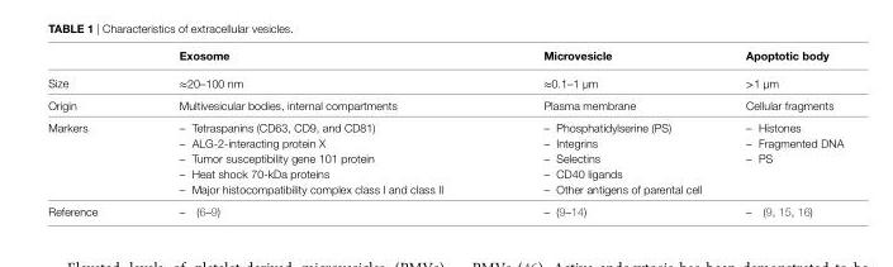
<table><thead><tr><td></td><td>exosome</td><td>Microvesicle</td><td>Apoptotic body</td></tr></thead><tbody><tr><td>Size</td><td>≈20–100 nm</td><td>≈0.1–1 µm</td><td>&gt;1 µm</td></tr><tr><td>Origin</td><td>Multivesicular bodies, internal compartments</td><td>Plasma membrane</td><td>Cellular fragments</td></tr><tr><td>Markers</td><td>– Tetraspanins (CD63, CD9, and CD81) – ALG-2-interacting protein X – Tumor susceptibility gene 101 protein – Heat shock 70-kDa proteins – Major histocompatibility complex class I and class II</td><td>– Phosphatidylserine (PS) – Integrins – Selectins – CD40 ligands – Other antigens of parental cell</td><td>– Histones – Fragmented DNA – PS</td></tr><tr><td>Reference</td><td>– (6–9)</td><td>– (9–14)</td><td>– (9, 15, 16)</td></tr></tbody></table>